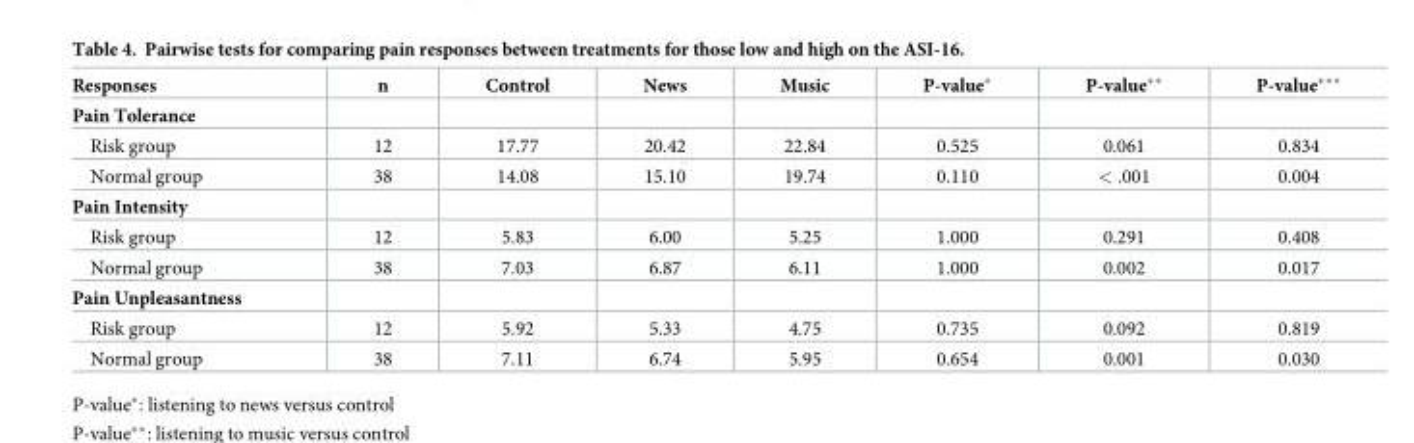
<table><thead><tr><td>Responses</td><td>n</td><td>Control</td><td>News</td><td>Music</td><td>P-value*</td><td>P-value**</td><td>P-value***</td></tr></thead><tbody><tr><td colspan="8">Pain Tolerance</td></tr><tr><td>Risk group</td><td>12</td><td>17.77</td><td>20.42</td><td>22.84</td><td>0.525</td><td>0.061</td><td>0.834</td></tr><tr><td>Normal group</td><td>38</td><td>14.08</td><td>15.10</td><td>19.74</td><td>0.110</td><td>&lt; .001</td><td>0.004</td></tr><tr><td colspan="8">Pain Intensity</td></tr><tr><td>Risk group</td><td>12</td><td>5.83</td><td>6.00</td><td>5.25</td><td>1.000</td><td>0.291</td><td>0.408</td></tr><tr><td>Normal group</td><td>38</td><td>7.03</td><td>6.87</td><td>6.11</td><td>1.000</td><td>0.002</td><td>0.017</td></tr><tr><td colspan="8">Pain Unpleasantness</td></tr><tr><td>Risk group</td><td>12</td><td>5.92</td><td>5.33</td><td>4.75</td><td>0.735</td><td>0.092</td><td>0.819</td></tr><tr><td>Normal group</td><td>38</td><td>7.11</td><td>6.74</td><td>5.95</td><td>0.654</td><td>0.001</td><td>0.030</td></tr></tbody></table>